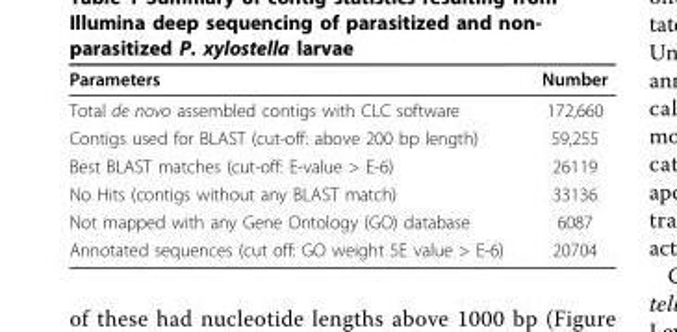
<table><thead><tr><td>Parameters</td><td>Number</td></tr></thead><tbody><tr><td>Total de novo assembled contigs with CLC software</td><td>172,660</td></tr><tr><td>Contigs used for BLAST (cut-off: above 200 bp length)</td><td>59,255</td></tr><tr><td>Best BLAST matches (cut-off: E-value &gt; E-6)</td><td>26119</td></tr><tr><td>No Hits (contigs without any BLAST match)</td><td>33136</td></tr><tr><td>Not mapped with any Gene Ontology (GO) database</td><td>6087</td></tr><tr><td>Annotated sequences (cut off: GO weight 5E value &gt; E-6)</td><td>20704</td></tr></tbody></table>